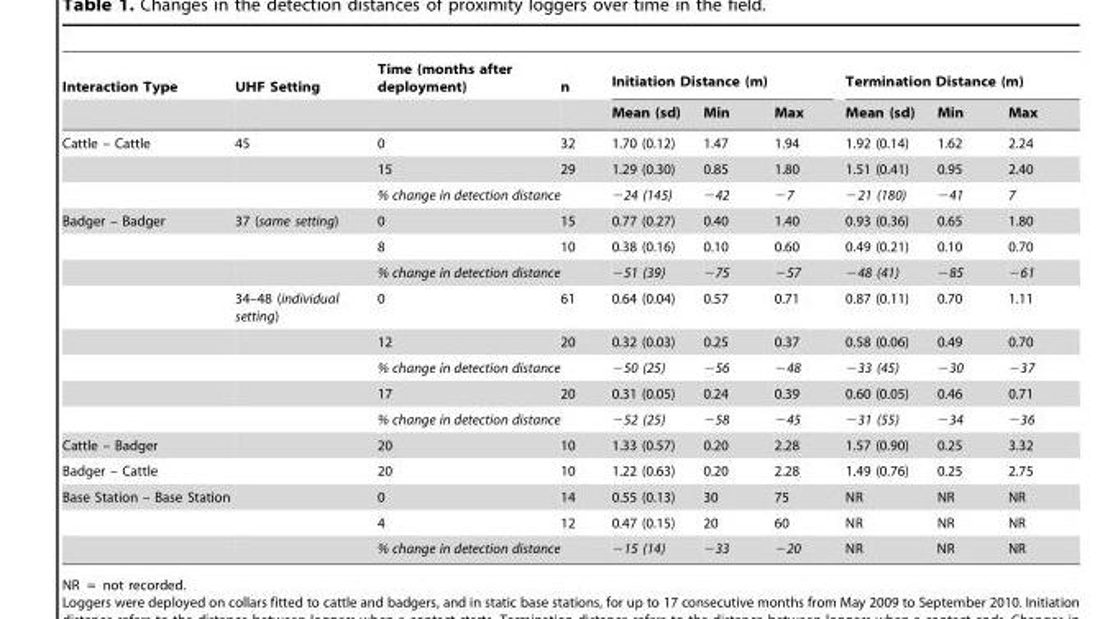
<table><thead><tr><td rowspan="2">Interaction Type</td><td rowspan="2">UHF Setting</td><td rowspan="2">Time (months after deployment)</td><td rowspan="2">n</td><td colspan="3">Initiation Distance (m)</td><td colspan="3">Termination Distance (m)</td></tr><tr><td>Mean (sd)</td><td>Min</td><td>Max</td><td>Mean (sd)</td><td>Min</td><td>Max</td></tr></thead><tbody><tr><td rowspan="3">Cattle – Cattle</td><td>45</td><td>0</td><td>32</td><td>1.70 (0.12)</td><td>1.47</td><td>1.94</td><td>1.92 (0.14)</td><td>1.62</td><td>2.24</td></tr><tr><td></td><td>15</td><td>29</td><td>1.29 (0.30)</td><td>0.85</td><td>1.80</td><td>1.51 (0.41)</td><td>0.95</td><td>2.40</td></tr><tr><td></td><td>% change in detection distance</td><td></td><td>−24 (145)</td><td>−42</td><td>−7</td><td>−21 (180)</td><td>−41</td><td>7</td></tr><tr><td rowspan="8">Badger – Badger</td><td>37 (same setting)</td><td>0</td><td>15</td><td>0.77 (0.27)</td><td>0.40</td><td>1.40</td><td>0.93 (0.36)</td><td>0.65</td><td>1.80</td></tr><tr><td></td><td>8</td><td>10</td><td>0.38 (0.16)</td><td>0.10</td><td>0.60</td><td>0.49 (0.21)</td><td>0.10</td><td>0.70</td></tr><tr><td></td><td>% change in detection distance</td><td></td><td>−51 (39)</td><td>−75</td><td>−57</td><td>−48 (41)</td><td>−85</td><td>−61</td></tr><tr><td>34–48 (individual setting)</td><td>0</td><td>61</td><td>0.64 (0.04)</td><td>0.57</td><td>0.71</td><td>0.87 (0.11)</td><td>0.70</td><td>1.11</td></tr><tr><td></td><td>12</td><td>20</td><td>0.32 (0.03)</td><td>0.25</td><td>0.37</td><td>0.58 (0.06)</td><td>0.49</td><td>0.70</td></tr><tr><td></td><td>% change in detection distance</td><td></td><td>−50 (25)</td><td>−56</td><td>−48</td><td>−33 (45)</td><td>−30</td><td>−37</td></tr><tr><td></td><td>17</td><td>20</td><td>0.31 (0.05)</td><td>0.24</td><td>0.39</td><td>0.60 (0.05)</td><td>0.46</td><td>0.71</td></tr><tr><td></td><td>% change in detection distance</td><td></td><td>−52 (25)</td><td>−58</td><td>−45</td><td>−31 (55)</td><td>−34</td><td>−36</td></tr><tr><td>Cattle – Badger</td><td></td><td>20</td><td>10</td><td>1.33 (0.57)</td><td>0.20</td><td>2.28</td><td>1.57 (0.90)</td><td>0.25</td><td>3.32</td></tr><tr><td>Badger – Cattle</td><td></td><td>20</td><td>10</td><td>1.22 (0.63)</td><td>0.20</td><td>2.28</td><td>1.49 (0.76)</td><td>0.25</td><td>2.75</td></tr><tr><td rowspan="3">Base Station – Base Station</td><td></td><td>0</td><td>14</td><td>0.55 (0.13)</td><td>30</td><td>75</td><td>NR</td><td>NR</td><td>NR</td></tr><tr><td></td><td>4</td><td>12</td><td>0.47 (0.15)</td><td>20</td><td>60</td><td>NR</td><td>NR</td><td>NR</td></tr><tr><td></td><td>% change in detection distance</td><td></td><td>−15 (14)</td><td>−33</td><td>−20</td><td>NR</td><td>NR</td><td>NR</td></tr></tbody></table>